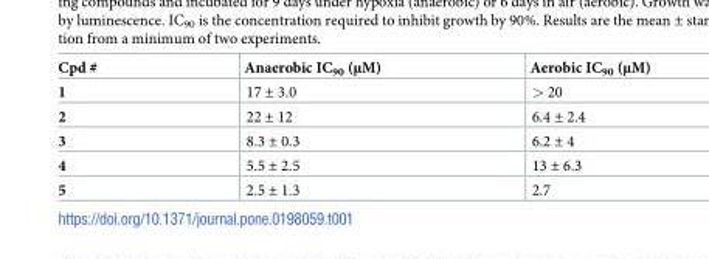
<table><thead><tr><td>Cpd #</td><td>Anaerobic IC<sub>90</sub> (μM)</td><td>Aerobic IC<sub>90</sub> (μM)</td></tr></thead><tbody><tr><td>1</td><td>17 ± 3.0</td><td>&gt; 20</td></tr><tr><td>2</td><td>22 ± 12</td><td>6.4 ± 2.4</td></tr><tr><td>3</td><td>8.3 ± 0.3</td><td>6.2 ± 4</td></tr><tr><td>4</td><td>5.5 ± 2.5</td><td>13 ± 6.3</td></tr><tr><td>5</td><td>2.5 ± 1.3</td><td>2.7</td></tr></tbody></table>